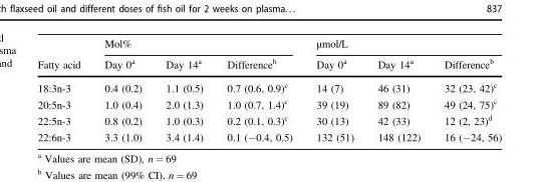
<table><thead><tr><td rowspan="2">Fatty acid</td><td colspan="3">Mol%</td><td colspan="3">µmol/L</td></tr><tr><td>Day 0<sup>a</sup></td><td>Day 14<sup>a</sup></td><td>Difference<sup>b</sup></td><td>Day 0<sup>a</sup></td><td>Day 14<sup>a</sup></td><td>Difference<sup>b</sup></td></tr></thead><tbody><tr><td>18:3n-3</td><td>0.4 (0.2)</td><td>1.1 (0.5)</td><td>0.7 (0.6, 0.9)<sup>c</sup></td><td>14 (7)</td><td>46 (31)</td><td>32 (23, 42)<sup>c</sup></td></tr><tr><td>20:5n-3</td><td>1.0 (0.4)</td><td>2.0 (1.3)</td><td>1.0 (0.7, 1.4)<sup>c</sup></td><td>39 (19)</td><td>89 (82)</td><td>49 (24, 75)<sup>c</sup></td></tr><tr><td>22:5n-3</td><td>0.8 (0.2)</td><td>1.0 (0.3)</td><td>0.2 (0.1, 0.3)<sup>c</sup></td><td>30 (13)</td><td>42 (33)</td><td>12 (2, 23)<sup>d</sup></td></tr><tr><td>22:6n-3</td><td>3.3 (1.0)</td><td>3.4 (1.4)</td><td>0.1 (−0.4, 0.5)</td><td>132 (51)</td><td>148 (122)</td><td>16 (−24, 56)</td></tr></tbody></table>